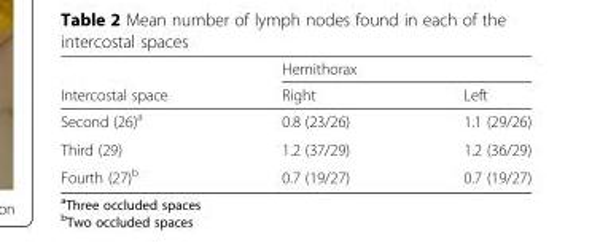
<table><thead><tr><td rowspan="2">Intercostal space</td><td colspan="2">Hemithorax</td></tr><tr><td>Right</td><td>Left</td></tr></thead><tbody><tr><td>Second (26)<sup>a</sup></td><td>0.8 (23/26)</td><td>1.1 (29/26)</td></tr><tr><td>Third (29)</td><td>1.2 (37/29)</td><td>1.2 (36/29)</td></tr><tr><td>Fourth (27)<sup>b</sup></td><td>0.7 (19/27)</td><td>0.7 (19/27)</td></tr></tbody></table>